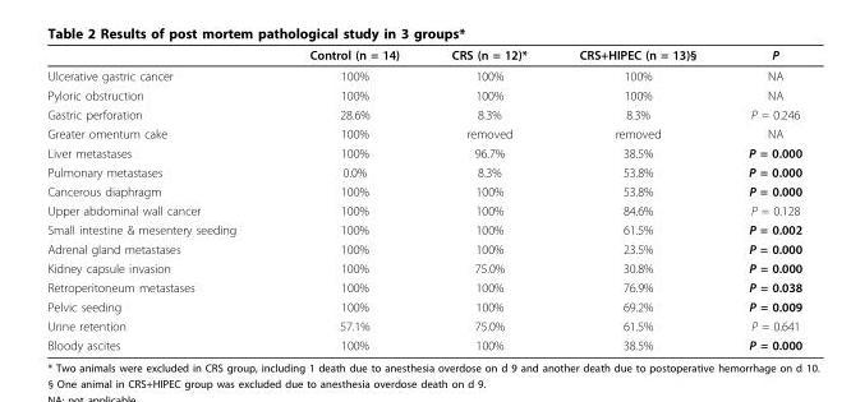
<table><thead><tr><td></td><td>Control (n = 14)</td><td>CRS (n = 12)*</td><td>CRS+HIPEC (n = 13)§</td><td>P</td></tr></thead><tbody><tr><td>Ulcerative gastric cancer</td><td>100%</td><td>100%</td><td>100%</td><td>NA</td></tr><tr><td>Pyloric obstruction</td><td>100%</td><td>100%</td><td>100%</td><td>NA</td></tr><tr><td>Gastric perforation</td><td>28.6%</td><td>8.3%</td><td>8.3%</td><td>P = 0.246</td></tr><tr><td>Greater omentum cake</td><td>100%</td><td>removed</td><td>removed</td><td>NA</td></tr><tr><td>Liver metastases</td><td>100%</td><td>96.7%</td><td>38.5%</td><td>P = 0.000</td></tr><tr><td>Pulmonary metastases</td><td>0.0%</td><td>8.3%</td><td>53.8%</td><td>P = 0.000</td></tr><tr><td>Cancerous diaphragm</td><td>100%</td><td>100%</td><td>53.8%</td><td>P = 0.000</td></tr><tr><td>Upper abdominal wall cancer</td><td>100%</td><td>100%</td><td>84.6%</td><td>P = 0.128</td></tr><tr><td>Small intestine &amp; mesentery seeding</td><td>100%</td><td>100%</td><td>61.5%</td><td>P = 0.002</td></tr><tr><td>Adrenal gland metastases</td><td>100%</td><td>100%</td><td>23.5%</td><td>P = 0.000</td></tr><tr><td>Kidney capsule invasion</td><td>100%</td><td>75.0%</td><td>30.8%</td><td>P = 0.000</td></tr><tr><td>Retroperitoneum metastases</td><td>100%</td><td>100%</td><td>76.9%</td><td>P = 0.038</td></tr><tr><td>Pelvic seeding</td><td>100%</td><td>100%</td><td>69.2%</td><td>P = 0.009</td></tr><tr><td>Urine retention</td><td>57.1%</td><td>75.0%</td><td>61.5%</td><td>P = 0.641</td></tr><tr><td>Bloody ascites</td><td>100%</td><td>100%</td><td>38.5%</td><td>P = 0.000</td></tr></tbody></table>